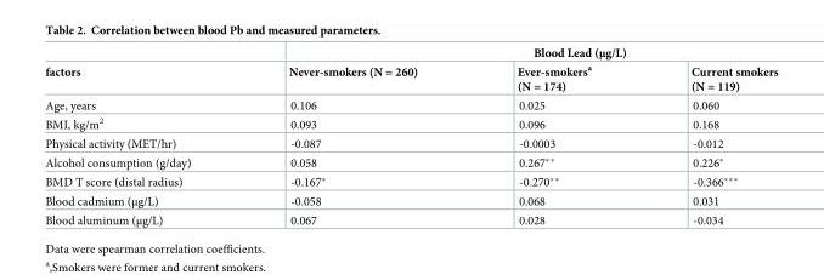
<table><thead><tr><td rowspan="2">factors</td><td colspan="3">Blood Lead (μg/L)</td></tr><tr><td>Never-smokers (N = 260)</td><td>Ever-smokers<sup>a</sup> (N = 174)</td><td>Current smokers (N = 119)</td></tr></thead><tbody><tr><td>Age, years</td><td>0.106</td><td>0.025</td><td>0.060</td></tr><tr><td>BMI, kg/m<sup>2</sup></td><td>0.093</td><td>0.096</td><td>0.168</td></tr><tr><td>Physical activity (MET/hr)</td><td>-0.087</td><td>-0.0003</td><td>-0.012</td></tr><tr><td>Alcohol consumption (g/day)</td><td>0.058</td><td>0.267**</td><td>0.226*</td></tr><tr><td>BMD T score (distal radius)</td><td>-0.167*</td><td>-0.270**</td><td>-0.366***</td></tr><tr><td>Blood cadmium (μg/L)</td><td>-0.058</td><td>0.068</td><td>0.031</td></tr><tr><td>Blood aluminum (μg/L)</td><td>0.067</td><td>0.028</td><td>-0.034</td></tr></tbody></table>